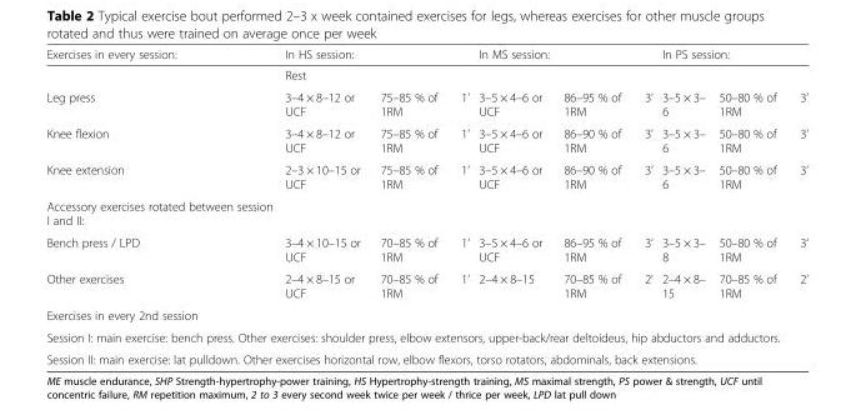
<table><thead><tr><td rowspan="3">Exercises in every session: Leg press</td><td rowspan="2" colspan="3">In HS session: Rest</td><td colspan="3">In MS session:</td><td colspan="3">In PS session:</td></tr><tr><td rowspan="2">3–5 × 4–6 or UCF</td><td rowspan="2">86–95 % of 1RM</td><td rowspan="2">3’</td><td rowspan="2">3–5 × 3– 6</td><td rowspan="2">50–80 % of 1RM</td><td rowspan="2">3’</td></tr><tr><td>3–4 × 8–12 or UCF</td><td>75–85 % of 1RM</td><td>1’</td></tr></thead><tbody><tr><td>Knee flexion</td><td>3–4 × 8–12 or UCF</td><td>75–85 % of 1RM</td><td>1’</td><td>3–5 × 4–6 or UCF</td><td>86–90 % of 1RM</td><td>3’</td><td>3–5 × 3– 6</td><td>50–80 % of 1RM</td><td>3’</td></tr><tr><td>Knee extension</td><td>2–3 × 10–15 or UCF</td><td>75–85 % of 1RM</td><td>1’</td><td>3–5 × 4–6 or UCF</td><td>86–90 % of 1RM</td><td>3’</td><td>3–5 × 3– 6</td><td>50–80 % of 1RM</td><td>3’</td></tr><tr><td colspan="10">Accessory exercises rotated between session I and II:</td></tr><tr><td>Bench press / LPD</td><td>3–4 × 10–15 or UCF</td><td>70–85 % of 1RM</td><td>1’</td><td>3–5 × 4–6 or UCF</td><td>86–95 % of 1RM</td><td>3’</td><td>3–5 × 3– 8</td><td>50–80 % of 1RM</td><td>3’</td></tr><tr><td>Other exercises</td><td>2–4 × 8–15 or UCF</td><td>70–85 % of 1RM</td><td>1’</td><td>2–4 × 8–15</td><td>70–85 % of 1RM</td><td>2’</td><td>2–4 × 8– 15</td><td>70–85 % of 1RM</td><td>2’</td></tr><tr><td colspan="10">Exercises in every 2nd session</td></tr><tr><td colspan="10">Session I: main exercise: bench press. Other exercises: shoulder press, elbow extensors, upper-back/rear deltoideus, hip abductors and adductors.</td></tr><tr><td colspan="10">Session II: main exercise: lat pulldown. Other exercises horizontal row, elbow flexors, torso rotators, abdominals, back extensions.</td></tr></tbody></table>